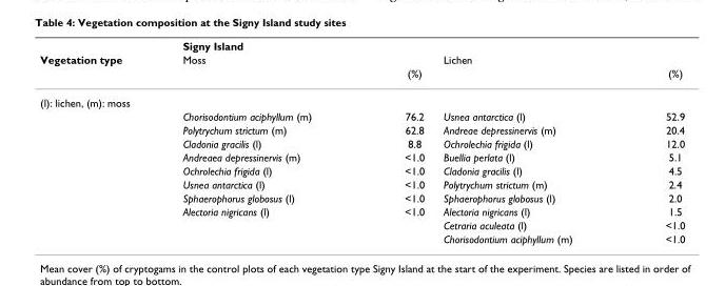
<table><thead><tr><td rowspan="3">Vegetation type</td><td rowspan="3">Signy Island Moss</td><td rowspan="3">(%)</td><td rowspan="3">Lichen</td><td rowspan="3">(%)</td></tr><tr></tr><tr></tr></thead><tbody><tr><td colspan="5">(l): lichen, (m): moss</td></tr><tr><td></td><td>Chorisodontium aciphyllum (m)</td><td>76.2</td><td>Usnea antarctica (l)</td><td>52.9</td></tr><tr><td></td><td>Polytrychum strictum (m)</td><td>62.8</td><td>Andreae depressinervis (m)</td><td>20.4</td></tr><tr><td></td><td>Cladonia gracilis (l)</td><td>8.8</td><td>Ochrolechia frigida (l)</td><td>12.0</td></tr><tr><td></td><td>Andreaea depressinervis (m)</td><td>&lt;1.0</td><td>Buellia perlata (l)</td><td>5.1</td></tr><tr><td></td><td>Ochrolechia frigida (l)</td><td>&lt;1.0</td><td>Cladonia gracilis (l)</td><td>4.5</td></tr><tr><td></td><td>Usnea antarctica (l)</td><td>&lt;1.0</td><td>Polytrychum strictum (m)</td><td>2.4</td></tr><tr><td></td><td>Sphaerophorus globosus (l)</td><td>&lt;1.0</td><td>Sphaerophorus globosus (l)</td><td>2.0</td></tr><tr><td></td><td>Alectoria nigricans (l)</td><td>&lt;1.0</td><td>Alectoria nigricans (l)</td><td>1.5</td></tr><tr><td></td><td></td><td></td><td>Cetraria aculeata (l)</td><td>&lt;1.0</td></tr><tr><td></td><td></td><td></td><td>Chorisodontium aciphyllum (m)</td><td>&lt;1.0</td></tr></tbody></table>